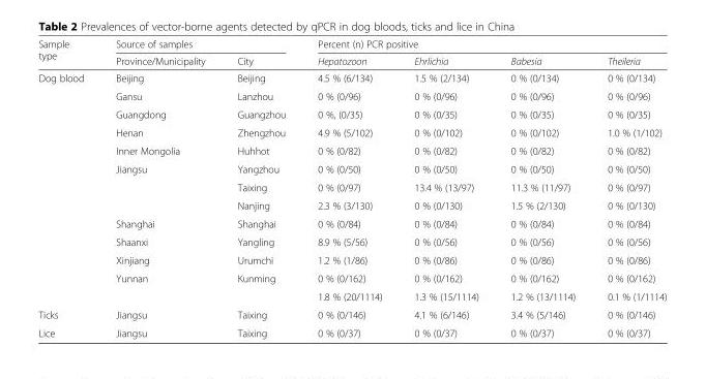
<table><thead><tr><td rowspan="2">Sample type</td><td colspan="2">Source of samples</td><td colspan="4">Percent (n) PCR positive</td></tr><tr><td>Province/Municipality</td><td>City</td><td>Hepatozoon</td><td>Ehrlichia</td><td>Babesia</td><td>Theileria</td></tr></thead><tbody><tr><td rowspan="13">Dog blood</td><td>Beijing</td><td>Beijing</td><td>4.5 % (6/134)</td><td>1.5 % (2/134)</td><td>0 % (0/134)</td><td>0 % (0/134)</td></tr><tr><td>Gansu</td><td>Lanzhou</td><td>0 % (0/96)</td><td>0 % (0/96)</td><td>0 % (0/96)</td><td>0 % (0/96)</td></tr><tr><td>Guangdong</td><td>Guangzhou</td><td>0 %, (0/35)</td><td>0 % (0/35)</td><td>0 % (0/35)</td><td>0 % (0/35)</td></tr><tr><td>Henan</td><td>Zhengzhou</td><td>4.9 % (5/102)</td><td>0 % (0/102)</td><td>0 % (0/102)</td><td>1.0 % (1/102)</td></tr><tr><td>Inner Mongolia</td><td>Huhhot</td><td>0 % (0/82)</td><td>0 % (0/82)</td><td>0 % (0/82)</td><td>0 % (0/82)</td></tr><tr><td rowspan="3">Jiangsu</td><td>Yangzhou</td><td>0 % (0/50)</td><td>0 % (0/50)</td><td>0 % (0/50)</td><td>0 % (0/50)</td></tr><tr><td>Taixing</td><td>0 % (0/97)</td><td>13.4 % (13/97)</td><td>11.3 % (11/97)</td><td>0 % (0/97)</td></tr><tr><td>Nanjing</td><td>2.3 % (3/130)</td><td>0 % (0/130)</td><td>1.5 % (2/130)</td><td>0 % (0/130)</td></tr><tr><td>Shanghai</td><td>Shanghai</td><td>0 % (0/84)</td><td>0 % (0/84)</td><td>0 % (0/84)</td><td>0 % (0/84)</td></tr><tr><td>Shaanxi</td><td>Yangling</td><td>8.9 % (5/56)</td><td>0 % (0/56)</td><td>0 % (0/56)</td><td>0 % (0/56)</td></tr><tr><td>Xinjiang</td><td>Urumchi</td><td>1.2 % (1/86)</td><td>0 % (0/86)</td><td>0 % (0/86)</td><td>0 % (0/86)</td></tr><tr><td>Yunnan</td><td>Kunming</td><td>0 % (0/162)</td><td>0 % (0/162)</td><td>0 % (0/162)</td><td>0 % (0/162)</td></tr><tr><td></td><td></td><td>1.8 % (20/1114)</td><td>1.3 % (15/1114)</td><td>1.2 % (13/1114)</td><td>0.1 % (1/1114)</td></tr><tr><td>Ticks</td><td>Jiangsu</td><td>Taixing</td><td>0 % (0/146)</td><td>4.1 % (6/146)</td><td>3.4 % (5/146)</td><td>0 % (0/146)</td></tr><tr><td>Lice</td><td>Jiangsu</td><td>Taixing</td><td>0 % (0/37)</td><td>0 % (0/37)</td><td>0 % (0/37)</td><td>0 % (0/37)</td></tr></tbody></table>